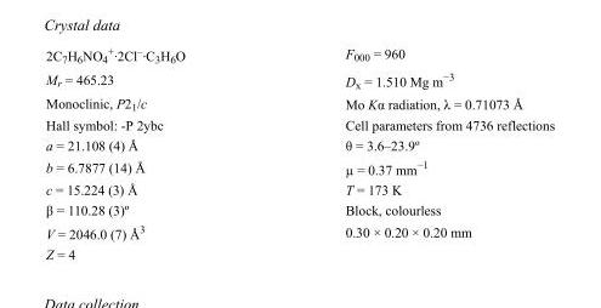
<table><tbody><tr><td>2C<sub>7</sub>H<sub>6</sub>NO<sub>4</sub> <sup>+</sup>·2Cl<sup>–</sup>·C<sub>3</sub>H<sub>6</sub>O</td><td>F000 = 960</td></tr><tr><td>M<sub>r</sub> = 465.23</td><td>D<sub>x</sub> = 1.510 Mg m<sup>−3</sup></td></tr><tr><td>Monoclinic, P2<sub>1</sub>/c</td><td>Mo Kα radiation, λ = 0.71073 Å</td></tr><tr><td>Hall symbol: -P 2ybc</td><td>Cell parameters from 4736 reflections</td></tr><tr><td>a = 21.108 (4) Å</td><td>θ = 3.6–23.9º</td></tr><tr><td>b = 6.7877 (14) Å</td><td>µ = 0.37 mm<sup>−1</sup></td></tr><tr><td>c = 15.224 (3) Å</td><td>T = 173 K</td></tr><tr><td>β = 110.28 (3)º</td><td>Block, colourless</td></tr><tr><td>V = 2046.0 (7) Å<sup>3</sup></td><td>0.30 × 0.20 × 0.20 mm</td></tr><tr><td>Z = 4</td><td></td></tr></tbody></table>